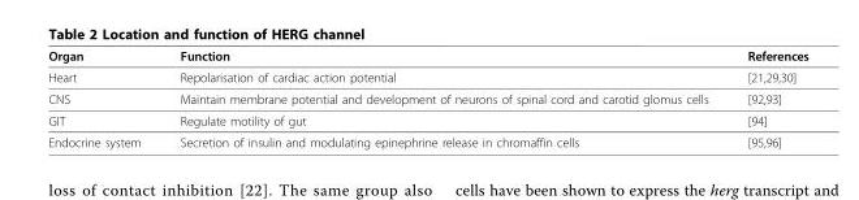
<table><thead><tr><td>Organ</td><td>Function</td><td>References</td></tr></thead><tbody><tr><td>Heart</td><td>Repolarisation of cardiac action potential</td><td>[21,29,30]</td></tr><tr><td>CNS</td><td>Maintain membrane potential and development of neurons of spinal cord and carotid glomus cells</td><td>[92,93]</td></tr><tr><td>GIT</td><td>Regulate motility of gut</td><td>[94]</td></tr><tr><td>Endocrine system</td><td>Secretion of insulin and modulating epinephrine release in chromaffin cells</td><td>[95,96]</td></tr></tbody></table>